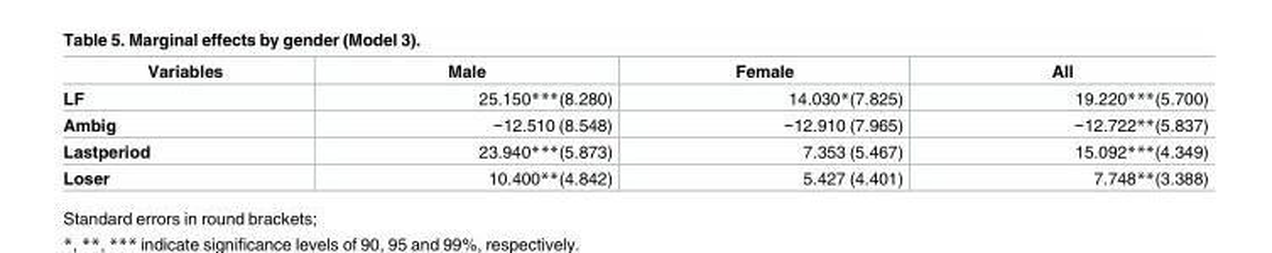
<table><thead><tr><td>Variables</td><td>Male</td><td>Female</td><td>All</td></tr></thead><tbody><tr><td>LF</td><td>25.150***(8.280)</td><td>14.030*(7.825)</td><td>19.220***(5.700)</td></tr><tr><td>Ambig</td><td>−12.510 (8.548)</td><td>−12.910 (7.965)</td><td>−12.722**(5.837)</td></tr><tr><td>Lastperiod</td><td>23.940***(5.873)</td><td>7.353 (5.467)</td><td>15.092***(4.349)</td></tr><tr><td>Loser</td><td>10.400**(4.842)</td><td>5.427 (4.401)</td><td>7.748**(3.388)</td></tr></tbody></table>